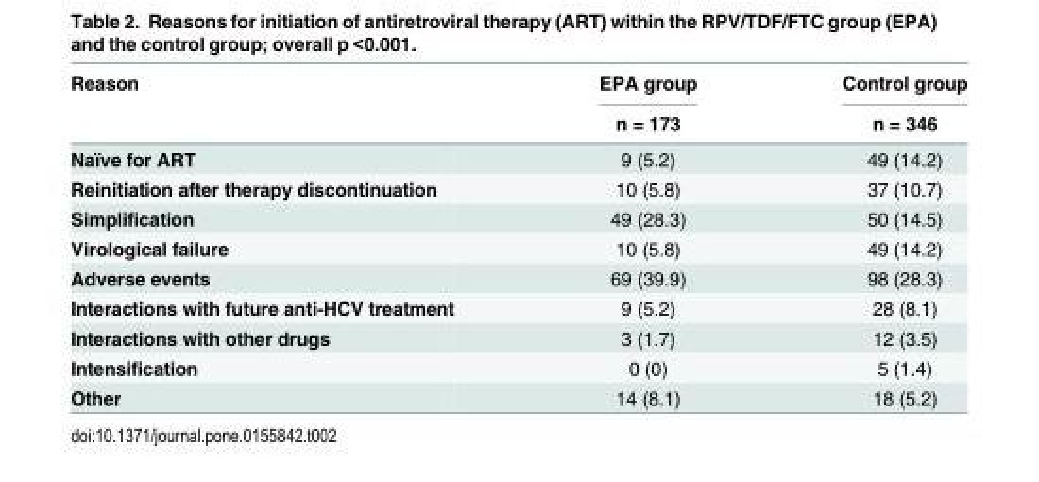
<table><thead><tr><td rowspan="2">Reason</td><td rowspan="2">EPA group n = 173</td><td rowspan="2">Control group n = 346</td></tr><tr></tr></thead><tbody><tr><td>Naïve for ART</td><td>9 (5.2)</td><td>49 (14.2)</td></tr><tr><td>Reinitiation after therapy discontinuation</td><td>10 (5.8)</td><td>37 (10.7)</td></tr><tr><td>Simplification</td><td>49 (28.3)</td><td>50 (14.5)</td></tr><tr><td>Virological failure</td><td>10 (5.8)</td><td>49 (14.2)</td></tr><tr><td>Adverse events</td><td>69 (39.9)</td><td>98 (28.3)</td></tr><tr><td>Interactions with future anti-HCV treatment</td><td>9 (5.2)</td><td>28 (8.1)</td></tr><tr><td>Interactions with other drugs</td><td>3 (1.7)</td><td>12 (3.5)</td></tr><tr><td>Intensification</td><td>0 (0)</td><td>5 (1.4)</td></tr><tr><td>Other</td><td>14 (8.1)</td><td>18 (5.2)</td></tr></tbody></table>